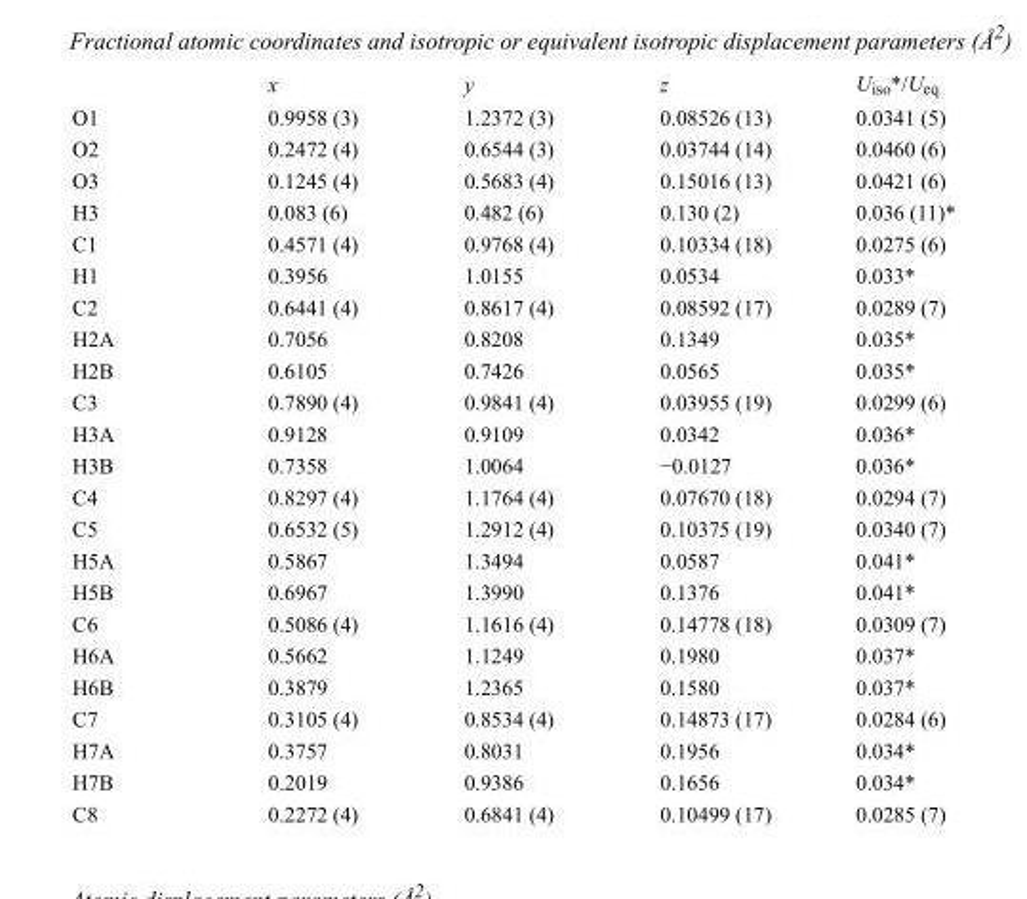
<table><thead><tr><td></td><td>x</td><td>y</td><td>z</td><td>U<sub>iso</sub>*/U<sub>eq</sub></td></tr></thead><tbody><tr><td>O1</td><td>0.9958 (3)</td><td>1.2372 (3)</td><td>0.08526 (13)</td><td>0.0341 (5)</td></tr><tr><td>O2</td><td>0.2472 (4)</td><td>0.6544 (3)</td><td>0.03744 (14)</td><td>0.0460 (6)</td></tr><tr><td>O3</td><td>0.1245 (4)</td><td>0.5683 (4)</td><td>0.15016 (13)</td><td>0.0421 (6)</td></tr><tr><td>H3</td><td>0.083 (6)</td><td>0.482 (6)</td><td>0.130 (2)</td><td>0.036 (11)*</td></tr><tr><td>C1</td><td>0.4571 (4)</td><td>0.9768 (4)</td><td>0.10334 (18)</td><td>0.0275 (6)</td></tr><tr><td>H1</td><td>0.3956</td><td>1.0155</td><td>0.0534</td><td>0.033*</td></tr><tr><td>C2</td><td>0.6441 (4)</td><td>0.8617 (4)</td><td>0.08592 (17)</td><td>0.0289 (7)</td></tr><tr><td>H2A</td><td>0.7056</td><td>0.8208</td><td>0.1349</td><td>0.035*</td></tr><tr><td>H2B</td><td>0.6105</td><td>0.7426</td><td>0.0565</td><td>0.035*</td></tr><tr><td>C3</td><td>0.7890 (4)</td><td>0.9841 (4)</td><td>0.03955 (19)</td><td>0.0299 (6)</td></tr><tr><td>H3A</td><td>0.9128</td><td>0.9109</td><td>0.0342</td><td>0.036*</td></tr><tr><td>H3B</td><td>0.7358</td><td>1.0064</td><td>−0.0127</td><td>0.036*</td></tr><tr><td>C4</td><td>0.8297 (4)</td><td>1.1764 (4)</td><td>0.07670 (18)</td><td>0.0294 (7)</td></tr><tr><td>C5</td><td>0.6532 (5)</td><td>1.2912 (4)</td><td>0.10375 (19)</td><td>0.0340 (7)</td></tr><tr><td>H5A</td><td>0.5867</td><td>1.3494</td><td>0.0587</td><td>0.041*</td></tr><tr><td>H5B</td><td>0.6967</td><td>1.3990</td><td>0.1376</td><td>0.041*</td></tr><tr><td>C6</td><td>0.5086 (4)</td><td>1.1616 (4)</td><td>0.14778 (18)</td><td>0.0309 (7)</td></tr><tr><td>H6A</td><td>0.5662</td><td>1.1249</td><td>0.1980</td><td>0.037*</td></tr><tr><td>H6B</td><td>0.3879</td><td>1.2365</td><td>0.1580</td><td>0.037*</td></tr><tr><td>C7</td><td>0.3105 (4)</td><td>0.8534 (4)</td><td>0.14873 (17)</td><td>0.0284 (6)</td></tr><tr><td>H7A</td><td>0.3757</td><td>0.8031</td><td>0.1956</td><td>0.034*</td></tr><tr><td>H7B</td><td>0.2019</td><td>0.9386</td><td>0.1656</td><td>0.034*</td></tr><tr><td>C8</td><td>0.2272 (4)</td><td>0.6841 (4)</td><td>0.10499 (17)</td><td>0.0285 (7)</td></tr></tbody></table>